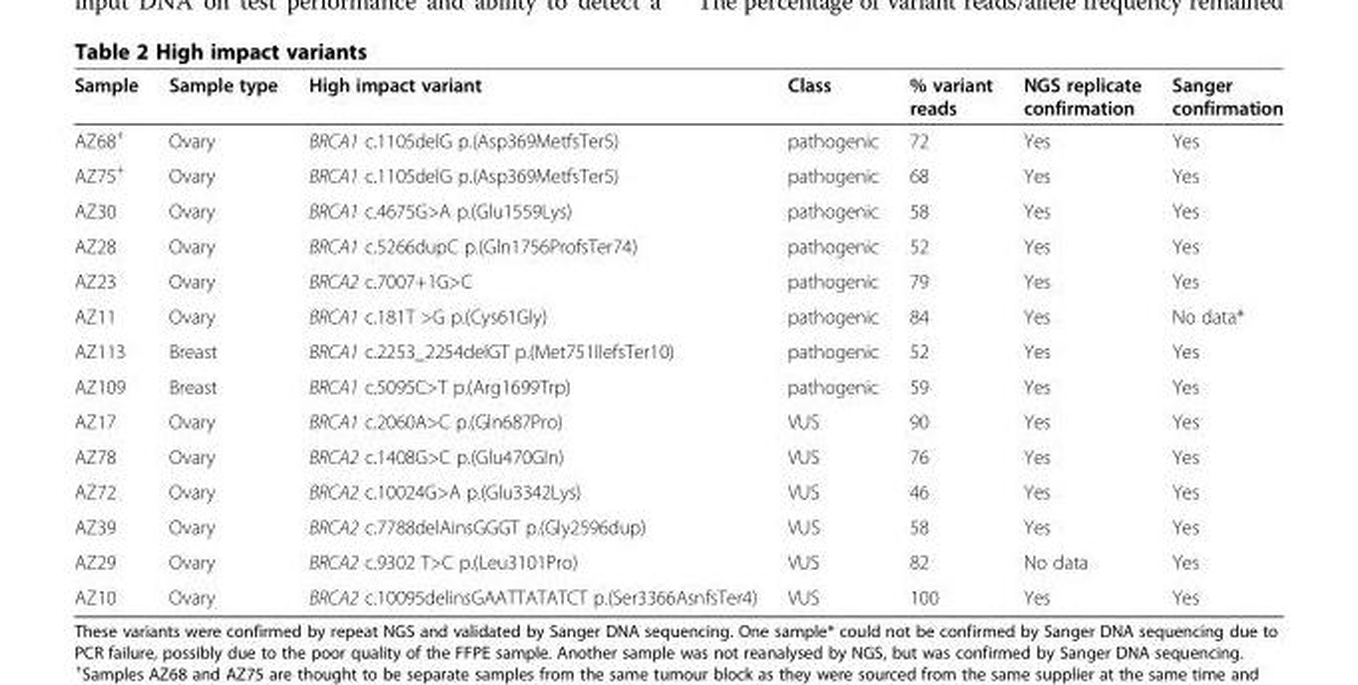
<table><thead><tr><td>Sample</td><td>Sample type</td><td>High impact variant</td><td>Class</td><td>% variant reads</td><td>NGS replicate confirmation</td><td>Sanger confirmation</td></tr></thead><tbody><tr><td>AZ68<sup>+</sup></td><td>Ovary</td><td>BRCA1 c.1105delG p.(Asp369MetfsTer5)</td><td>pathogenic</td><td>72</td><td>Yes</td><td>Yes</td></tr><tr><td>AZ75<sup>+</sup></td><td>Ovary</td><td>BRCA1 c.1105delG p.(Asp369MetfsTer5)</td><td>pathogenic</td><td>68</td><td>Yes</td><td>Yes</td></tr><tr><td>AZ30</td><td>Ovary</td><td>BRCA1 c.4675G&gt;A p.(Glu1559Lys)</td><td>pathogenic</td><td>58</td><td>Yes</td><td>Yes</td></tr><tr><td>AZ28</td><td>Ovary</td><td>BRCA1 c.5266dupC p.(Gln1756ProfsTer74)</td><td>pathogenic</td><td>52</td><td>Yes</td><td>Yes</td></tr><tr><td>AZ23</td><td>Ovary</td><td>BRCA2 c.7007+1G&gt;C</td><td>pathogenic</td><td>79</td><td>Yes</td><td>Yes</td></tr><tr><td>AZ11</td><td>Ovary</td><td>BRCA1 c.181T &gt;G p.(Cys61Gly)</td><td>pathogenic</td><td>84</td><td>Yes</td><td>No data*</td></tr><tr><td>AZ113</td><td>Breast</td><td>BRCA1 c.2253_2254delGT p.(Met751IlefsTer10)</td><td>pathogenic</td><td>52</td><td>Yes</td><td>Yes</td></tr><tr><td>AZ109</td><td>Breast</td><td>BRCA1 c.5095C&gt;T p.(Arg1699Trp)</td><td>pathogenic</td><td>59</td><td>Yes</td><td>Yes</td></tr><tr><td>AZ17</td><td>Ovary</td><td>BRCA1 c.2060A&gt;C p.(Gln687Pro)</td><td>VUS</td><td>90</td><td>Yes</td><td>Yes</td></tr><tr><td>AZ78</td><td>Ovary</td><td>BRCA2 c.1408G&gt;C p.(Glu470Gln)</td><td>VUS</td><td>76</td><td>Yes</td><td>Yes</td></tr><tr><td>AZ72</td><td>Ovary</td><td>BRCA2 c.10024G&gt;A p.(Glu3342Lys)</td><td>VUS</td><td>46</td><td>Yes</td><td>Yes</td></tr><tr><td>AZ39</td><td>Ovary</td><td>BRCA2 c.7788delAinsGGGT p.(Gly2596dup)</td><td>VUS</td><td>58</td><td>Yes</td><td>Yes</td></tr><tr><td>AZ29</td><td>Ovary</td><td>BRCA2 c.9302 T&gt;C p.(Leu3101Pro)</td><td>VUS</td><td>82</td><td>No data</td><td>Yes</td></tr><tr><td>AZ10</td><td>Ovary</td><td>BRCA2 c.10095delinsGAATTATATCT p.(Ser3366AsnfsTer4)</td><td>VUS</td><td>100</td><td>Yes</td><td>Yes</td></tr></tbody></table>